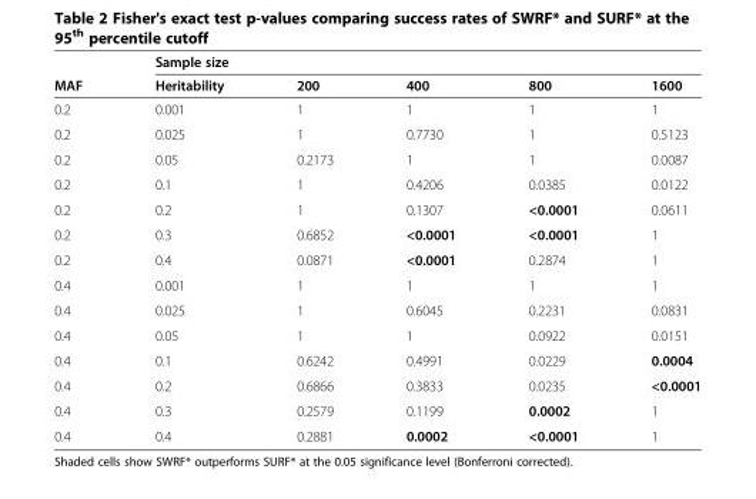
<table><thead><tr><td rowspan="2">MAF</td><td colspan="5">Sample size</td></tr><tr><td>Heritability</td><td>200</td><td>400</td><td>800</td><td>1600</td></tr></thead><tbody><tr><td>0.2</td><td>0.001</td><td>1</td><td>1</td><td>1</td><td>1</td></tr><tr><td>0.2</td><td>0.025</td><td>1</td><td>0.7730</td><td>1</td><td>0.5123</td></tr><tr><td>0.2</td><td>0.05</td><td>0.2173</td><td>1</td><td>1</td><td>0.0087</td></tr><tr><td>0.2</td><td>0.1</td><td>1</td><td>0.4206</td><td>0.0385</td><td>0.0122</td></tr><tr><td>0.2</td><td>0.2</td><td>1</td><td>0.1307</td><td>&lt;0.0001</td><td>0.0611</td></tr><tr><td>0.2</td><td>0.3</td><td>0.6852</td><td>&lt;0.0001</td><td>&lt;0.0001</td><td>1</td></tr><tr><td>0.2</td><td>0.4</td><td>0.0871</td><td>&lt;0.0001</td><td>0.2874</td><td>1</td></tr><tr><td>0.4</td><td>0.001</td><td>1</td><td>1</td><td>1</td><td>1</td></tr><tr><td>0.4</td><td>0.025</td><td>1</td><td>0.6045</td><td>0.2231</td><td>0.0831</td></tr><tr><td>0.4</td><td>0.05</td><td>1</td><td>1</td><td>0.0922</td><td>0.0151</td></tr><tr><td>0.4</td><td>0.1</td><td>0.6242</td><td>0.4991</td><td>0.0229</td><td>0.0004</td></tr><tr><td>0.4</td><td>0.2</td><td>0.6866</td><td>0.3833</td><td>0.0235</td><td>&lt;0.0001</td></tr><tr><td>0.4</td><td>0.3</td><td>0.2579</td><td>0.1199</td><td>0.0002</td><td>1</td></tr><tr><td>0.4</td><td>0.4</td><td>0.2881</td><td>0.0002</td><td>&lt;0.0001</td><td>1</td></tr></tbody></table>